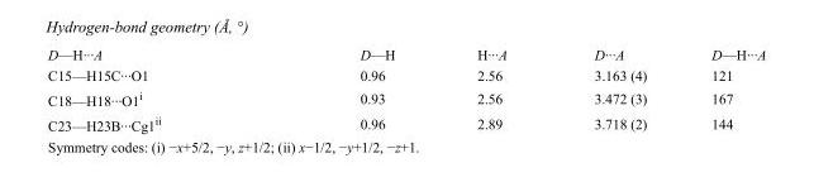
<table><tbody><tr><td>D—H···A</td><td>D—H</td><td>H···A</td><td>D···A</td><td>D—H···A</td></tr><tr><td>C15—H15C···O1</td><td>0.96</td><td>2.56</td><td>3.163 (4)</td><td>121</td></tr><tr><td>C18—H18···O1<sup>i</sup></td><td>0.93</td><td>2.56</td><td>3.472 (3)</td><td>167</td></tr><tr><td>C23—H23B···Cg1<sup>ii</sup></td><td>0.96</td><td>2.89</td><td>3.718 (2)</td><td>144</td></tr></tbody></table>